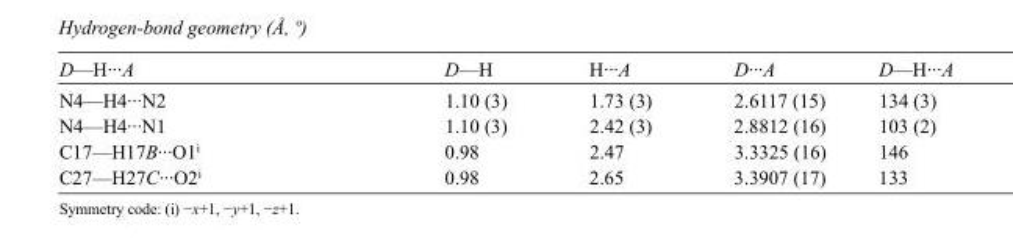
<table><tbody><tr><td>D—H···A</td><td>D—H</td><td>H···A</td><td>D···A</td><td>D—H···A</td></tr><tr><td>N4—H4···N2</td><td>1.10 (3)</td><td>1.73 (3)</td><td>2.6117 (15)</td><td>134 (3)</td></tr><tr><td>N4—H4···N1</td><td>1.10 (3)</td><td>2.42 (3)</td><td>2.8812 (16)</td><td>103 (2)</td></tr><tr><td>C17—H17B···O1<sup>i</sup></td><td>0.98</td><td>2.47</td><td>3.3325 (16)</td><td>146</td></tr><tr><td>C27—H27C···O2<sup>i</sup></td><td>0.98</td><td>2.65</td><td>3.3907 (17)</td><td>133</td></tr></tbody></table>